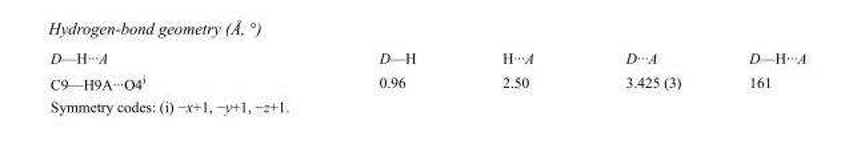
<table><tbody><tr><td>D—H···A</td><td>D—H</td><td>H···A</td><td>D···A</td><td>D—H···A</td></tr><tr><td>C9—H9A···O4<sup>i</sup></td><td>0.96</td><td>2.50</td><td>3.425 (3)</td><td>161</td></tr></tbody></table>